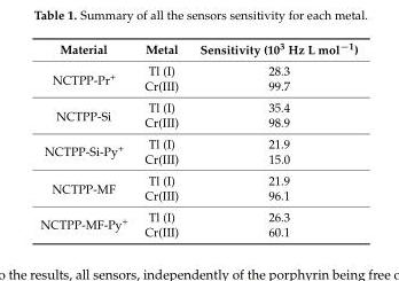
<table><thead><tr><td>Material</td><td>Metal</td><td>Sensitivity (103 Hz L mol−1)</td></tr></thead><tbody><tr><td rowspan="2">NCTPP-Pr+</td><td>Tl (I)</td><td>28.3</td></tr><tr><td>Cr(III)</td><td>99.7</td></tr><tr><td rowspan="2">NCTPP-Si</td><td>Tl (I)</td><td>35.4</td></tr><tr><td>Cr(III)</td><td>98.9</td></tr><tr><td rowspan="2">NCTPP-Si-Py+</td><td>Tl (I)</td><td>21.9</td></tr><tr><td>Cr(III)</td><td>15.0</td></tr><tr><td rowspan="2">NCTPP-MF</td><td>Tl (I)</td><td>21.9</td></tr><tr><td>Cr(III)</td><td>96.1</td></tr><tr><td rowspan="2">NCTPP-MF-Py+</td><td>Tl (I)</td><td>26.3</td></tr><tr><td>Cr(III)</td><td>60.1</td></tr></tbody></table>